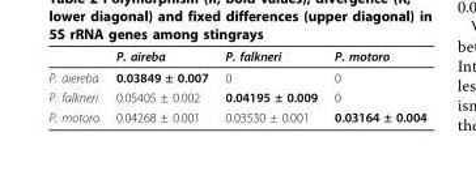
<table><thead><tr><td></td><td>P. aireba</td><td>P. falkneri</td><td>P. motoro</td></tr></thead><tbody><tr><td>P. aiereba</td><td>0.03849 ± 0.007</td><td>0</td><td>0</td></tr><tr><td>P. falkneri</td><td>0.05405 ± 0.002</td><td>0.04195 ± 0.009</td><td>0</td></tr><tr><td>P. motoro</td><td>0.04268 ± 0.001</td><td>0.03530 ± 0.001</td><td>0.03164 ± 0.004</td></tr></tbody></table>